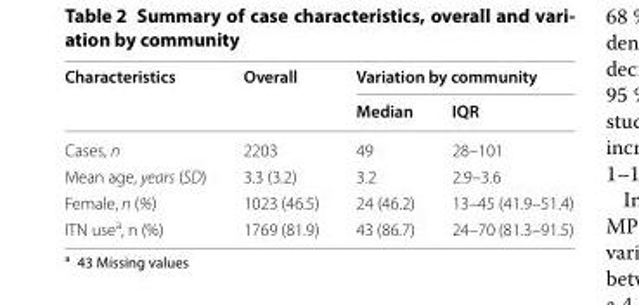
<table><thead><tr><td rowspan="2">Characteristics</td><td rowspan="2">Overall</td><td colspan="2">Variation by community</td></tr><tr><td>Median</td><td>IQR</td></tr></thead><tbody><tr><td>Cases, n</td><td>2203</td><td>49</td><td>28–101</td></tr><tr><td>Mean age, years (SD)</td><td>3.3 (3.2)</td><td>3.2</td><td>2.9–3.6</td></tr><tr><td>Female, n (%)</td><td>1023 (46.5)</td><td>24 (46.2)</td><td>13–45 (41.9–51.4)</td></tr><tr><td>ITN use<sup>a</sup>, n (%)</td><td>1769 (81.9)</td><td>43 (86.7)</td><td>24–70 (81.3–91.5)</td></tr></tbody></table>